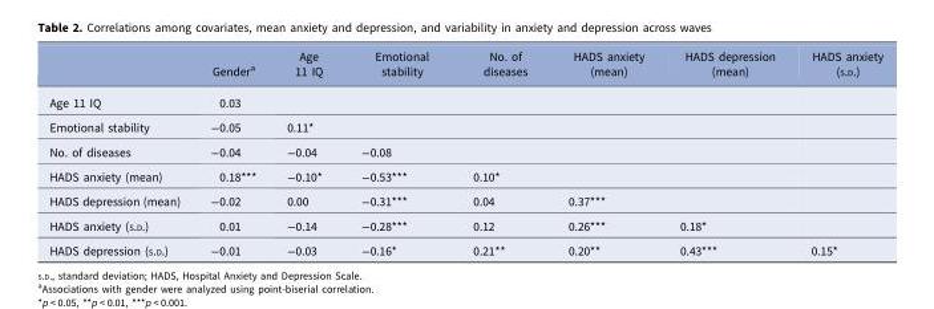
<table><thead><tr><td></td><td>Gender<sup>a</sup></td><td>Age 11 IQ</td><td>Emotional stability</td><td>No. of diseases</td><td>HADS anxiety (mean)</td><td>HADS depression (mean)</td><td>HADS anxiety (S.D.)</td></tr></thead><tbody><tr><td>Age 11 IQ</td><td>0.03</td><td></td><td></td><td></td><td></td><td></td><td></td></tr><tr><td>Emotional stability</td><td>−0.05</td><td>0.11*</td><td></td><td></td><td></td><td></td><td></td></tr><tr><td>No. of diseases</td><td>−0.04</td><td>−0.04</td><td>−0.08</td><td></td><td></td><td></td><td></td></tr><tr><td>HADS anxiety (mean)</td><td>0.18***</td><td>−0.10*</td><td>−0.53***</td><td>0.10*</td><td></td><td></td><td></td></tr><tr><td>HADS depression (mean)</td><td>−0.02</td><td>0.00</td><td>−0.31***</td><td>0.04</td><td>0.37***</td><td></td><td></td></tr><tr><td>HADS anxiety (S.D.)</td><td>0.01</td><td>−0.14</td><td>−0.28***</td><td>0.12</td><td>0.26***</td><td>0.18*</td><td></td></tr><tr><td>HADS depression (S.D.)</td><td>−0.01</td><td>−0.03</td><td>−0.16*</td><td>0.21**</td><td>0.20**</td><td>0.43***</td><td>0.15*</td></tr></tbody></table>